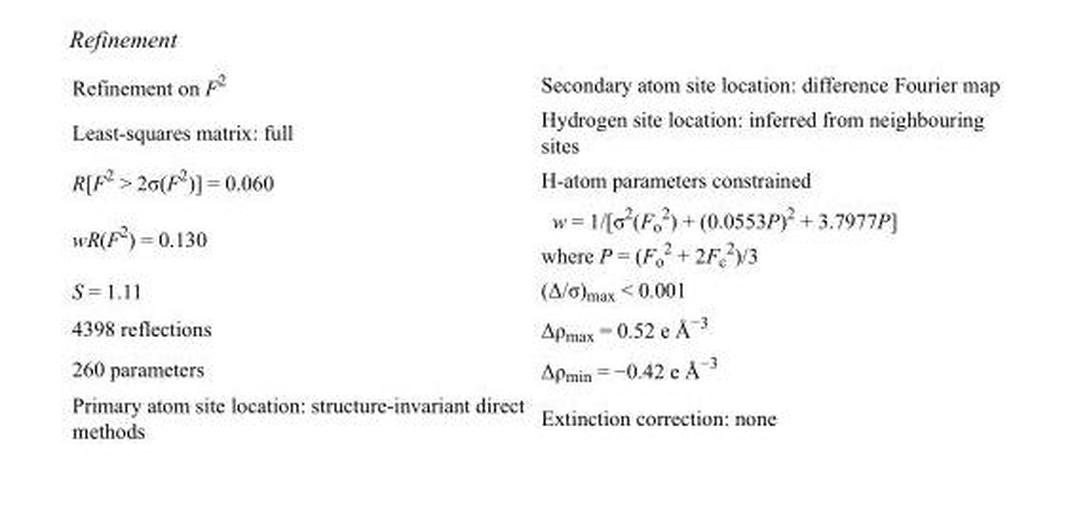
<table><tbody><tr><td>Refinement on F<sup>2</sup></td><td>Secondary atom site location: difference Fourier map</td></tr><tr><td>Least-squares matrix: full</td><td>Hydrogen site location: inferred from neighbouring sites</td></tr><tr><td>R[F<sup>2</sup> &gt; 2σ(F<sup>2</sup>)] = 0.060</td><td>H-atom parameters constrained</td></tr><tr><td>wR(F<sup>2</sup>) = 0.130</td><td>w = 1/[σ<sup>2</sup>(F<sub>o</sub> <sup>2</sup>) + (0.0553P)<sup>2</sup> + 3.7977P] where P = (F<sub>o</sub> <sup>2</sup> + 2F<sub>c</sub> <sup>2</sup>)/3</td></tr><tr><td>S = 1.11</td><td>(Δ/σ)<sub>max</sub> &lt; 0.001</td></tr><tr><td>4398 reflections</td><td>Δρ<sub>max</sub> = 0.52 e Å<sup>−3</sup></td></tr><tr><td>260 parameters</td><td>Δρ<sub>min</sub> = −0.42 e Å<sup>−3</sup></td></tr><tr><td>Primary atom site location: structure-invariant direct methods</td><td>Extinction correction: none</td></tr></tbody></table>